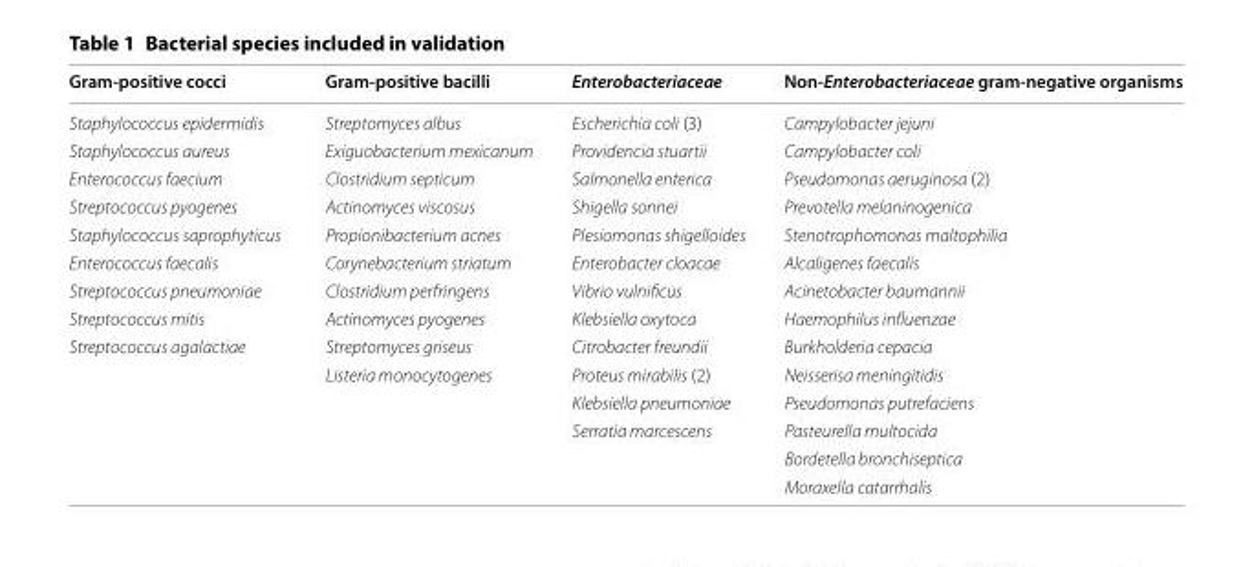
<table><thead><tr><td>Gram-positive cocci</td><td>Gram-positive bacilli</td><td>Enterobacteriaceae</td><td>Non-Enterobacteriaceae gram-negative organisms</td></tr></thead><tbody><tr><td>Staphylococcus epidermidis</td><td>Streptomyces albus</td><td>Escherichia coli (3)</td><td>Campylobacter jejuni</td></tr><tr><td>Staphylococcus aureus</td><td>Exiguobacterium mexicanum</td><td>Providencia stuartii</td><td>Campylobacter coli</td></tr><tr><td>Enterococcus faecium</td><td>Clostridium septicum</td><td>Salmonella enterica</td><td>Pseudomonas aeruginosa (2)</td></tr><tr><td>Streptococcus pyogenes</td><td>Actinomyces viscosus</td><td>Shigella sonnei</td><td>Prevotella melaninogenica</td></tr><tr><td>Staphylococcus saprophyticus</td><td>Propionibacterium acnes</td><td>Plesiomonas shigelloides</td><td>Stenotrophomonas maltophilia</td></tr><tr><td>Enterococcus faecalis</td><td>Corynebacterium striatum</td><td>Enterobacter cloacae</td><td>Alcaligenes faecalis</td></tr><tr><td>Streptococcus pneumoniae</td><td>Clostridium perfringens</td><td>Vibrio vulnificus</td><td>Acinetobacter baumannii</td></tr><tr><td>Streptococcus mitis</td><td>Actinomyces pyogenes</td><td>Klebsiella oxytoca</td><td>Haemophilus influenzae</td></tr><tr><td rowspan="6">Streptococcus agalactiae</td><td>Streptomyces griseus</td><td>Citrobacter freundii</td><td>Burkholderia cepacia</td></tr><tr><td>Listeria monocytogenes</td><td>Proteus mirabilis (2)</td><td>Neisserisa meningitidis</td></tr><tr><td></td><td>Klebsiella pneumoniae</td><td>Pseudomonas putrefaciens</td></tr><tr><td></td><td>Serratia marcescens</td><td>Pasteurella multocida</td></tr><tr><td></td><td></td><td>Bordetella bronchiseptica</td></tr><tr><td></td><td></td><td>Moraxella catarrhalis</td></tr></tbody></table>